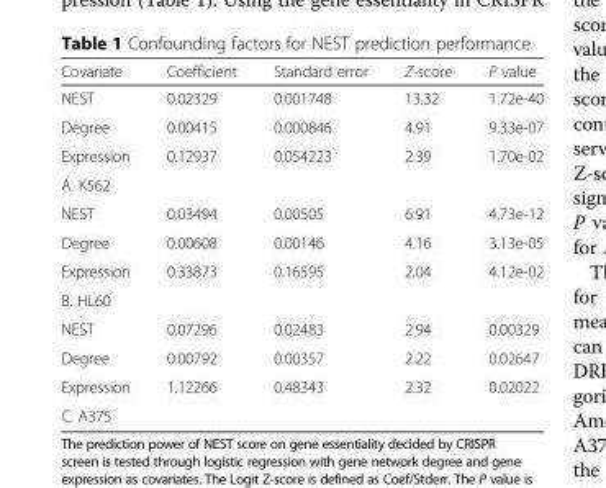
<table><thead><tr><td>Covariate</td><td>Coefficient</td><td>Standard error</td><td>Z-score</td><td>P value</td></tr></thead><tbody><tr><td>NEST</td><td>0.02329</td><td>0.001748</td><td>13.32</td><td>1.72e-40</td></tr><tr><td>Degree</td><td>0.00415</td><td>0.000846</td><td>4.91</td><td>9.33e-07</td></tr><tr><td>Expression</td><td>0.12937</td><td>0.054223</td><td>2.39</td><td>1.70e-02</td></tr><tr><td colspan="5">A. K562</td></tr><tr><td>NEST</td><td>0.03494</td><td>0.00505</td><td>6.91</td><td>4.73e-12</td></tr><tr><td>Degree</td><td>0.00608</td><td>0.00146</td><td>4.16</td><td>3.13e-05</td></tr><tr><td>Expression</td><td>0.33873</td><td>0.16595</td><td>2.04</td><td>4.12e-02</td></tr><tr><td colspan="5">B. HL60</td></tr><tr><td>NEST</td><td>0.07296</td><td>0.02483</td><td>2.94</td><td>0.00329</td></tr><tr><td>Degree</td><td>0.00792</td><td>0.00357</td><td>2.22</td><td>0.02647</td></tr><tr><td>Expression</td><td>1.12266</td><td>0.48343</td><td>2.32</td><td>0.02022</td></tr><tr><td colspan="5">C. A375</td></tr></tbody></table>